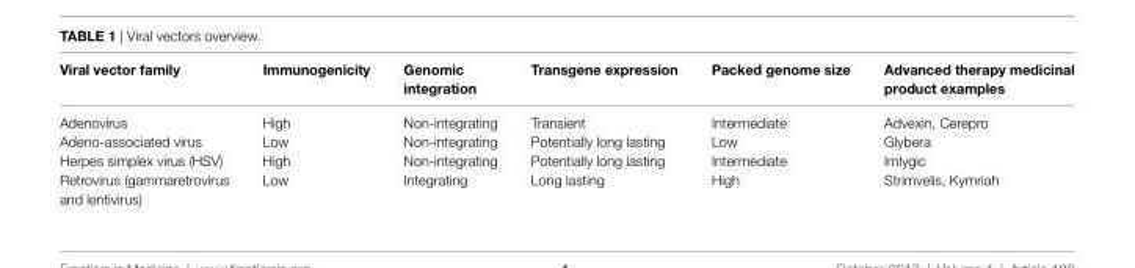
<table><thead><tr><td>viral vector family</td><td>immunogenicity</td><td>Genomic integration</td><td>Transgene expression</td><td>Packed genome size</td><td>Advanced therapy medicinal product examples</td></tr></thead><tbody><tr><td>Adenovirus</td><td>High</td><td>Non-integrating</td><td>Transient</td><td>Intermediate</td><td>Advexin, Cerepro</td></tr><tr><td>Adeno-associated virus</td><td>Low</td><td>Non-integrating</td><td>Potentially long lasting</td><td>Low</td><td>Glybera</td></tr><tr><td>Herpes simplex virus (HSV)</td><td>High</td><td>Non-integrating</td><td>Potentially long lasting</td><td>Intermediate</td><td>Imlygic</td></tr><tr><td>Retrovirus (gammaretrovirus and lentivirus)</td><td>Low</td><td>Integrating</td><td>Long lasting</td><td>High</td><td>Strimvelis, Kymriah</td></tr></tbody></table>